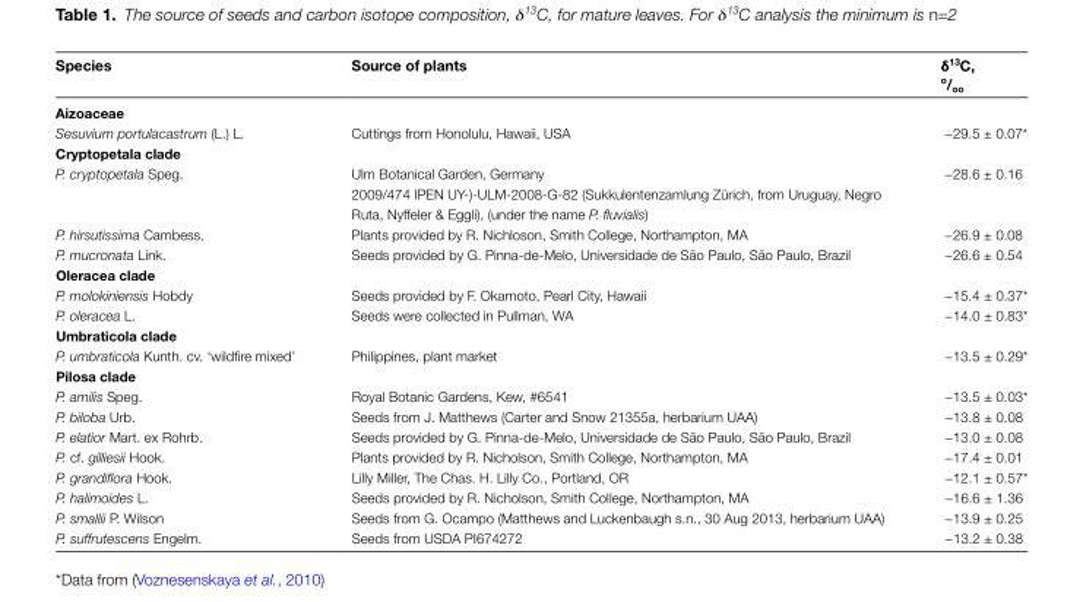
<table><thead><tr><td>Species</td><td>Source of plants</td><td>δ<sup>13</sup>C, <sup>o</sup>/<sub>oo</sub></td></tr></thead><tbody><tr><td colspan="3">Aizoaceae</td></tr><tr><td>Sesuvium portulacastrum (L.) L.</td><td>Cuttings from Honolulu, Hawaii, USA</td><td>−29.5 ± 0.07*</td></tr><tr><td colspan="3">Cryptopetala clade</td></tr><tr><td>P. cryptopetala Speg.</td><td>Ulm Botanical Garden, Germany 2009/474 IPEN UY-)-ULM-2008-G-82 (Sukkulentenzamlung Zürich, from Uruguay, Negro Ruta, Nyffeler &amp; Eggli), (under the name P. fluvialis)</td><td>−28.6 ± 0.16</td></tr><tr><td>P. hirsutissima Cambess.</td><td>Plants provided by R. Nichloson, Smith College, Northampton, MA</td><td>−26.9 ± 0.08</td></tr><tr><td>P. mucronata Link.</td><td>Seeds provided by G. Pinna-de-Melo, Universidade de São Paulo, São Paulo, Brazil</td><td>−26.6 ± 0.54</td></tr><tr><td colspan="3">Oleracea clade</td></tr><tr><td>P. molokiniensis Hobdy</td><td>Seeds provided by F. Okamoto, Pearl City, Hawaii</td><td>−15.4 ± 0.37*</td></tr><tr><td>P. oleracea L.</td><td>Seeds were collected in Pullman, WA</td><td>−14.0 ± 0.83*</td></tr><tr><td colspan="3">Umbraticola clade</td></tr><tr><td>P. umbraticola Kunth. cv. ‘wildfire mixed’</td><td>Philippines, plant market</td><td>−13.5 ± 0.29*</td></tr><tr><td colspan="3">Pilosa clade</td></tr><tr><td>P. amilis Speg.</td><td>Royal Botanic Gardens, Kew, #6541</td><td>−13.5 ± 0.03*</td></tr><tr><td>P. biloba Urb.</td><td>Seeds from J. Matthews (Carter and Snow 21355a, herbarium UAA)</td><td>−13.8 ± 0.08</td></tr><tr><td>P. elatior Mart. ex Rohrb.</td><td>Seeds provided by G. Pinna-de-Melo, Universidade de São Paulo, São Paulo, Brazil</td><td>−13.0 ± 0.08</td></tr><tr><td>P. cf. gilliesii Hook.</td><td>Plants provided by R. Nicholson, Smith College, Northampton, MA</td><td>−17.4 ± 0.01</td></tr><tr><td>P. grandiflora Hook.</td><td>Lilly Miller, The Chas. H. Lilly Co., Portland, OR</td><td>−12.1 ± 0.57*</td></tr><tr><td>P. halimoides L.</td><td>Seeds provided by R. Nicholson, Smith College, Northampton, MA</td><td>−16.6 ± 1.36</td></tr><tr><td>P. smallii P. Wilson</td><td>Seeds from G. Ocampo (Matthews and Luckenbaugh s.n., 30 Aug 2013, herbarium UAA)</td><td>−13.9 ± 0.25</td></tr><tr><td>P. suffrutescens Engelm.</td><td>Seeds from USDA PI674272</td><td>−13.2 ± 0.38</td></tr></tbody></table>